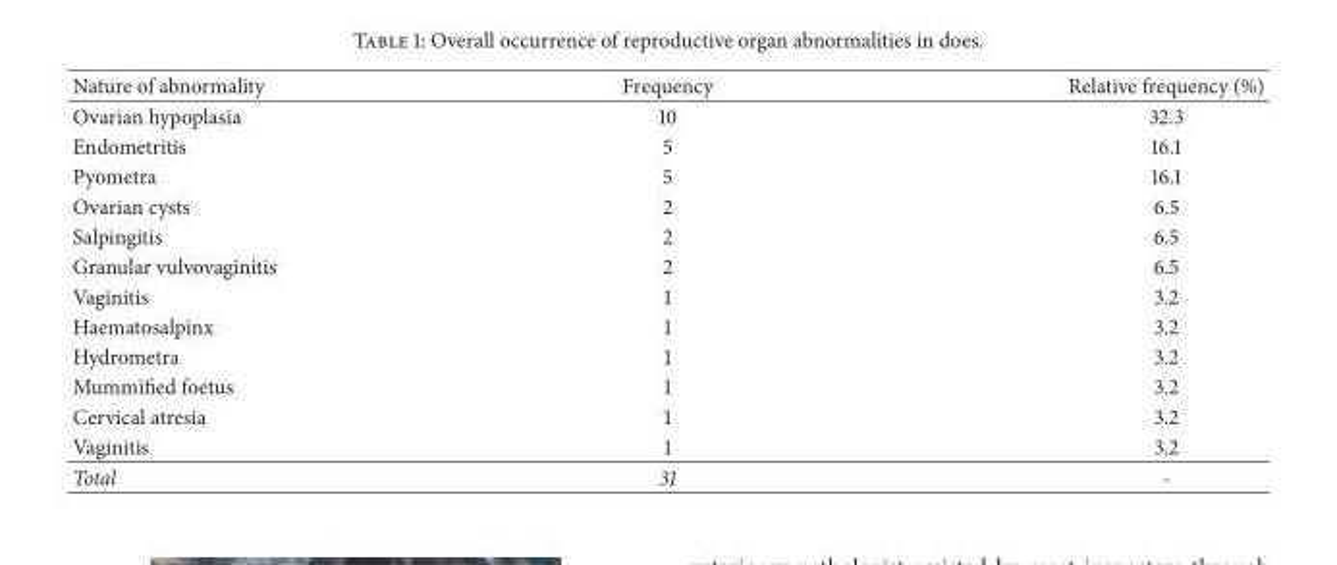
<table><thead><tr><td>Nature of abnormality</td><td>Frequency</td><td>Relative frequency (%)</td></tr></thead><tbody><tr><td>Ovarian hypoplasia</td><td>10</td><td>32.3</td></tr><tr><td>Endometritis</td><td>5</td><td>16.1</td></tr><tr><td>Pyometra</td><td>5</td><td>16.1</td></tr><tr><td>Ovarian cysts</td><td>2</td><td>6.5</td></tr><tr><td>Salpingitis</td><td>2</td><td>6.5</td></tr><tr><td>Granular vulvovaginitis</td><td>2</td><td>6.5</td></tr><tr><td>Vaginitis</td><td>1</td><td>3.2</td></tr><tr><td>Haematosalpinx</td><td>1</td><td>3.2</td></tr><tr><td>Hydrometra</td><td>1</td><td>3.2</td></tr><tr><td>Mummified foetus</td><td>1</td><td>3.2</td></tr><tr><td>Cervical atresia</td><td>1</td><td>3.2</td></tr><tr><td>Vaginitis</td><td>1</td><td>3.2</td></tr><tr><td>Total</td><td>31</td><td>-</td></tr></tbody></table>